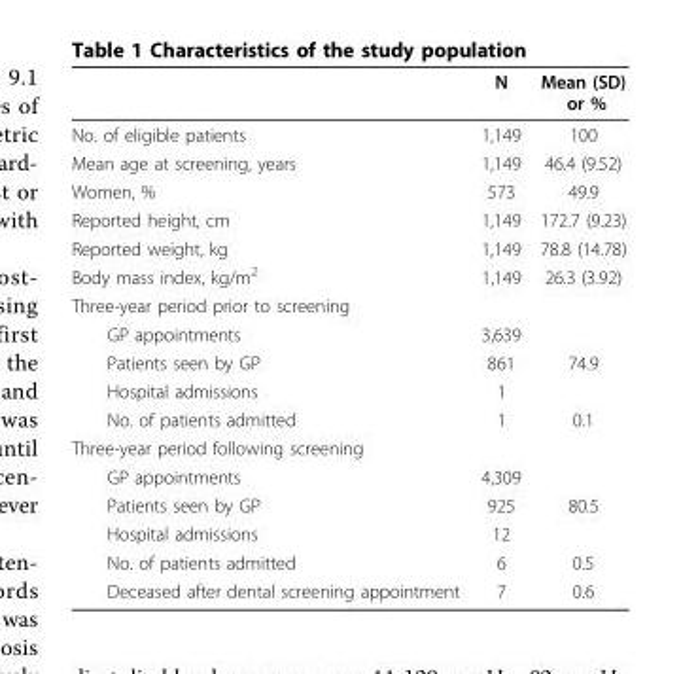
<table><thead><tr><td></td><td>N</td><td>Mean (SD) or %</td></tr></thead><tbody><tr><td>No. of eligible patients</td><td>1,149</td><td>100</td></tr><tr><td>Mean age at screening, years</td><td>1,149</td><td>46.4 (9.52)</td></tr><tr><td>Women, %</td><td>573</td><td>49.9</td></tr><tr><td>Reported height, cm</td><td>1,149</td><td>172.7 (9.23)</td></tr><tr><td>Reported weight, kg</td><td>1,149</td><td>78.8 (14.78)</td></tr><tr><td>Body mass index, kg/m<sup>2</sup></td><td>1,149</td><td>26.3 (3.92)</td></tr><tr><td colspan="3">Three-year period prior to screening</td></tr><tr><td>GP appointments</td><td>3,639</td><td></td></tr><tr><td>Patients seen by GP</td><td>861</td><td>74.9</td></tr><tr><td>Hospital admissions</td><td>1</td><td></td></tr><tr><td>No. of patients admitted</td><td>1</td><td>0.1</td></tr><tr><td colspan="3">Three-year period following screening</td></tr><tr><td>GP appointments</td><td>4,309</td><td></td></tr><tr><td>Patients seen by GP</td><td>925</td><td>80.5</td></tr><tr><td>Hospital admissions</td><td>12</td><td></td></tr><tr><td>No. of patients admitted</td><td>6</td><td>0.5</td></tr><tr><td>Deceased after dental screening appointment</td><td>7</td><td>0.6</td></tr></tbody></table>